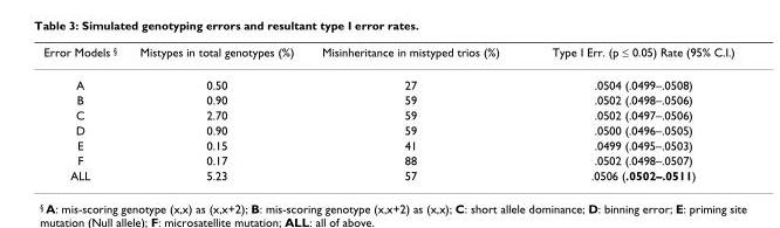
<table><thead><tr><td>Error Models <sup>§</sup></td><td>Mistypes in total genotypes (%)</td><td>Misinheritance in mistyped trios (%)</td><td>Type I Err. (p ≤ 0.05) Rate (95% C.I.)</td></tr></thead><tbody><tr><td>A</td><td>0.50</td><td>27</td><td>.0504 (.0499–.0508)</td></tr><tr><td>B</td><td>0.90</td><td>59</td><td>.0502 (.0498–.0506)</td></tr><tr><td>C</td><td>2.70</td><td>59</td><td>.0502 (.0497–.0506)</td></tr><tr><td>D</td><td>0.90</td><td>59</td><td>.0500 (.0496–.0505)</td></tr><tr><td>E</td><td>0.15</td><td>41</td><td>.0499 (.0495–.0503)</td></tr><tr><td>F</td><td>0.17</td><td>88</td><td>.0502 (.0498–.0507)</td></tr><tr><td>ALL</td><td>5.23</td><td>57</td><td>.0506 (.0502–.0511)</td></tr></tbody></table>